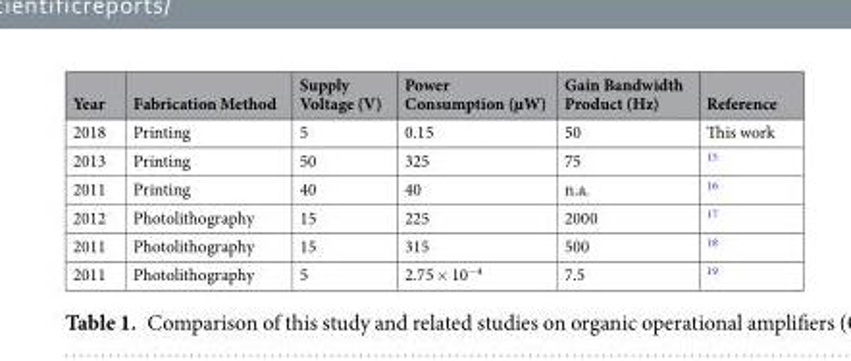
<table><thead><tr><td>Year</td><td>Fabrication Method</td><td>Supply Voltage (V)</td><td>Power Consumption (µW)</td><td>Gain Bandwidth Product (Hz)</td><td>Reference</td></tr></thead><tbody><tr><td>2018</td><td>Printing</td><td>5</td><td>0.15</td><td>50</td><td>This work</td></tr><tr><td>2013</td><td>Printing</td><td>50</td><td>325</td><td>75</td><td><sup>15</sup></td></tr><tr><td>2011</td><td>Printing</td><td>40</td><td>40</td><td>n.a.</td><td><sup>16</sup></td></tr><tr><td>2012</td><td>Photolithography</td><td>15</td><td>225</td><td>2000</td><td><sup>17</sup></td></tr><tr><td>2011</td><td>Photolithography</td><td>15</td><td>315</td><td>500</td><td><sup>18</sup></td></tr><tr><td>2011</td><td>Photolithography</td><td>5</td><td>2.75 × 10<sup>−4</sup></td><td>7.5</td><td><sup>19</sup></td></tr></tbody></table>